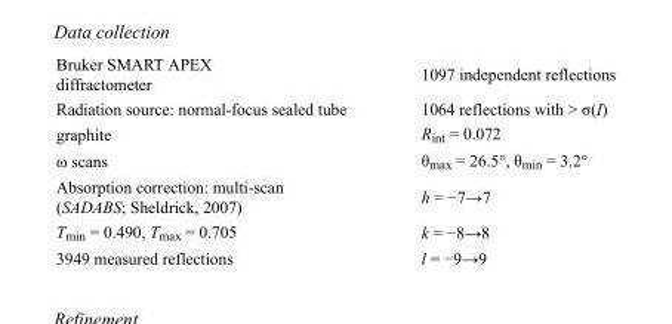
<table><tbody><tr><td>Bruker SMART APEX diffractometer</td><td>1097 independent reflections</td></tr><tr><td>Radiation source: normal-focus sealed tube</td><td>1064 reflections with &gt; σ(I)</td></tr><tr><td>graphite</td><td>R<sub>int</sub> = 0.072</td></tr><tr><td>ω scans</td><td>θ<sub>max</sub> = 26.5°, θ<sub>min</sub> = 3.2°</td></tr><tr><td>Absorption correction: multi-scan (SADABS; Sheldrick, 2007)</td><td>h = −7→7</td></tr><tr><td>T<sub>min</sub> = 0.490, T<sub>max</sub> = 0.705</td><td>k = −8→8</td></tr><tr><td>3949 measured reflections</td><td>l = −9→9</td></tr></tbody></table>